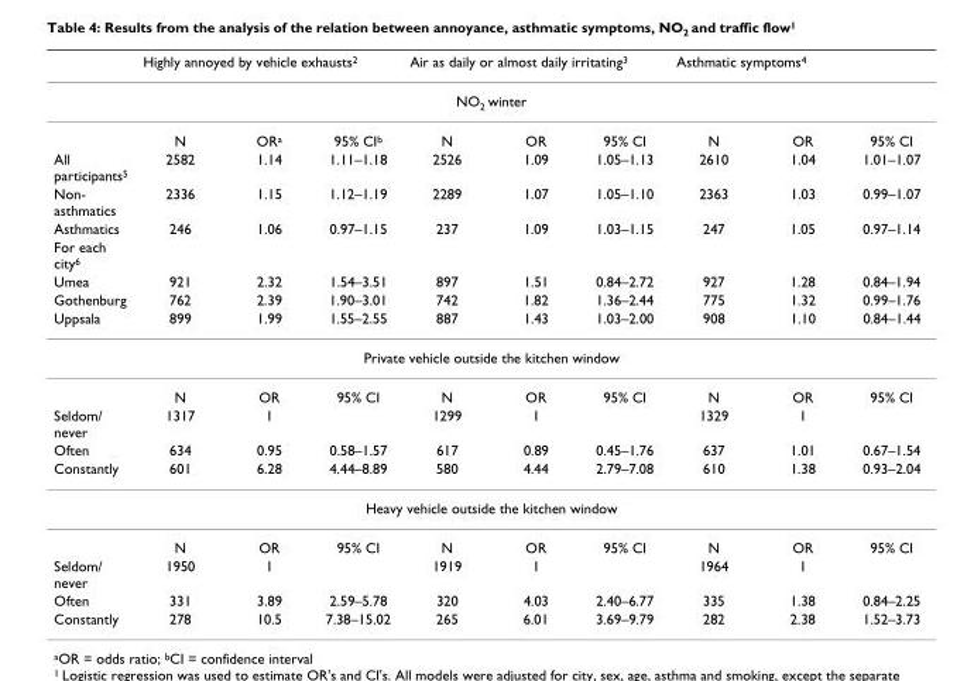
<table><thead><tr><td></td><td colspan="3">Highly annoyed by vehicle exhausts<sup>2</sup></td><td colspan="3">Air as daily or almost daily irritating<sup>3</sup></td><td colspan="3">Asthmatic symptoms<sup>4</sup></td></tr><tr><td colspan="10">NO<sub>2</sub> winter</td></tr><tr><td></td><td>N</td><td>OR<sup>a</sup></td><td>95% CI<sup>b</sup></td><td>N</td><td>OR</td><td>95% CI</td><td>N</td><td>OR</td><td>95% CI</td></tr></thead><tbody><tr><td>All participants<sup>5</sup></td><td>2582</td><td>1.14</td><td>1.11–1.18</td><td>2526</td><td>1.09</td><td>1.05–1.13</td><td>2610</td><td>1.04</td><td>1.01–1.07</td></tr><tr><td>Non- asthmatics</td><td>2336</td><td>1.15</td><td>1.12–1.19</td><td>2289</td><td>1.07</td><td>1.05–1.10</td><td>2363</td><td>1.03</td><td>0.99–1.07</td></tr><tr><td>Asthmatics</td><td>246</td><td>1.06</td><td>0.97–1.15</td><td>237</td><td>1.09</td><td>1.03–1.15</td><td>247</td><td>1.05</td><td>0.97–1.14</td></tr><tr><td colspan="10">For each city<sup>6</sup></td></tr><tr><td>Umea</td><td>921</td><td>2.32</td><td>1.54–3.51</td><td>897</td><td>1.51</td><td>0.84–2.72</td><td>927</td><td>1.28</td><td>0.84–1.94</td></tr><tr><td>Gothenburg</td><td>762</td><td>2.39</td><td>1.90–3.01</td><td>742</td><td>1.82</td><td>1.36–2.44</td><td>775</td><td>1.32</td><td>0.99–1.76</td></tr><tr><td>Uppsala</td><td>899</td><td>1.99</td><td>1.55–2.55</td><td>887</td><td>1.43</td><td>1.03–2.00</td><td>908</td><td>1.10</td><td>0.84–1.44</td></tr><tr><td colspan="10">Private vehicle outside the kitchen window</td></tr><tr><td></td><td>N</td><td>OR</td><td>95% CI</td><td>N</td><td>OR</td><td>95% CI</td><td>N</td><td>OR</td><td>95% CI</td></tr><tr><td>Seldom/ never</td><td>1317</td><td>1</td><td></td><td>1299</td><td>1</td><td></td><td>1329</td><td>1</td><td></td></tr><tr><td>Often</td><td>634</td><td>0.95</td><td>0.58–1.57</td><td>617</td><td>0.89</td><td>0.45–1.76</td><td>637</td><td>1.01</td><td>0.67–1.54</td></tr><tr><td>Constantly</td><td>601</td><td>6.28</td><td>4.44–8.89</td><td>580</td><td>4.44</td><td>2.79–7.08</td><td>610</td><td>1.38</td><td>0.93–2.04</td></tr><tr><td colspan="10">Heavy vehicle outside the kitchen window</td></tr><tr><td></td><td>N</td><td>OR</td><td>95% CI</td><td>N</td><td>OR</td><td>95% CI</td><td>N</td><td>OR</td><td>95% CI</td></tr><tr><td>Seldom/ never</td><td>1950</td><td>1</td><td></td><td>1919</td><td>1</td><td></td><td>1964</td><td>1</td><td></td></tr><tr><td>Often</td><td>331</td><td>3.89</td><td>2.59–5.78</td><td>320</td><td>4.03</td><td>2.40–6.77</td><td>335</td><td>1.38</td><td>0.84–2.25</td></tr><tr><td>Constantly</td><td>278</td><td>10.5</td><td>7.38–15.02</td><td>265</td><td>6.01</td><td>3.69–9.79</td><td>282</td><td>2.38</td><td>1.52–3.73</td></tr></tbody></table>